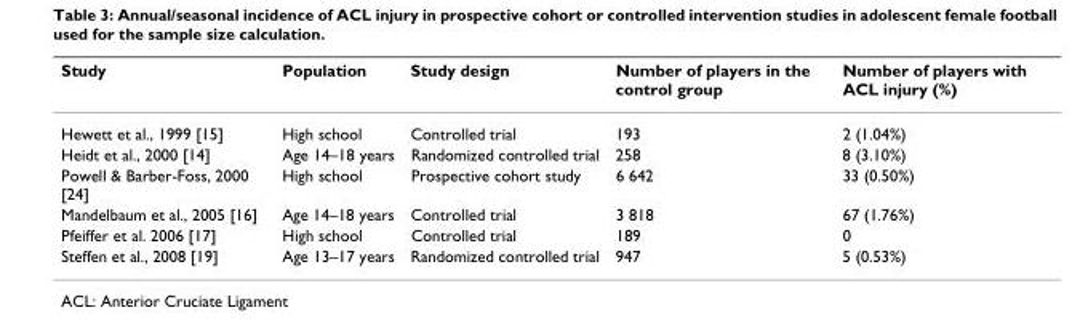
<table><thead><tr><td>Study</td><td>Population</td><td>Study design</td><td>Number of players in the control group</td><td>Number of players with ACL injury (%)</td></tr></thead><tbody><tr><td>Hewett et al., 1999 [15]</td><td>High school</td><td>Controlled trial</td><td>193</td><td>2 (1.04%)</td></tr><tr><td>Heidt et al., 2000 [14]</td><td>Age 14–18 years</td><td>Randomized controlled trial</td><td>258</td><td>8 (3.10%)</td></tr><tr><td>Powell &amp; Barber-Foss, 2000 [24]</td><td>High school</td><td>Prospective cohort study</td><td>6 642</td><td>33 (0.50%)</td></tr><tr><td>Mandelbaum et al., 2005 [16]</td><td>Age 14–18 years</td><td>Controlled trial</td><td>3 818</td><td>67 (1.76%)</td></tr><tr><td>Pfeiffer et al. 2006 [17]</td><td>High school</td><td>Controlled trial</td><td>189</td><td>0</td></tr><tr><td>Steffen et al., 2008 [19]</td><td>Age 13–17 years</td><td>Randomized controlled trial</td><td>947</td><td>5 (0.53%)</td></tr></tbody></table>